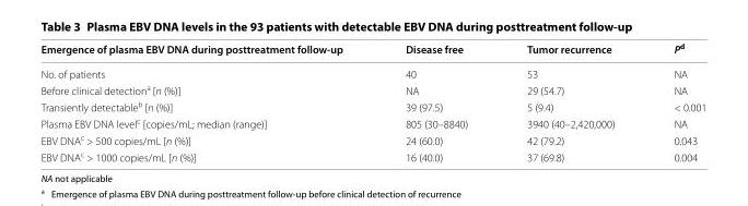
<table><thead><tr><td>Emergence of plasma EBV DNA during posttreatment follow‑up</td><td>Disease free</td><td>Tumor recurrence</td><td>P<sup>d</sup></td></tr></thead><tbody><tr><td>No. of patients</td><td>40</td><td>53</td><td>NA</td></tr><tr><td>Before clinical detection<sup>a</sup> [n (%)]</td><td>NA</td><td>29 (54.7)</td><td>NA</td></tr><tr><td>Transiently detectable<sup>b</sup> [n (%)]</td><td>39 (97.5)</td><td>5 (9.4)</td><td>&lt; 0.001</td></tr><tr><td>Plasma EBV DNA level<sup>c</sup> [copies/mL; median (range)]</td><td>805 (30–8840)</td><td>3940 (40–2,420,000)</td><td>NA</td></tr><tr><td>EBV DNA<sup>c</sup> &gt; 500 copies/mL [n (%)]</td><td>24 (60.0)</td><td>42 (79.2)</td><td>0.043</td></tr><tr><td>EBV DNA<sup>c</sup> &gt; 1000 copies/mL [n (%)]</td><td>16 (40.0)</td><td>37 (69.8)</td><td>0.004</td></tr></tbody></table>